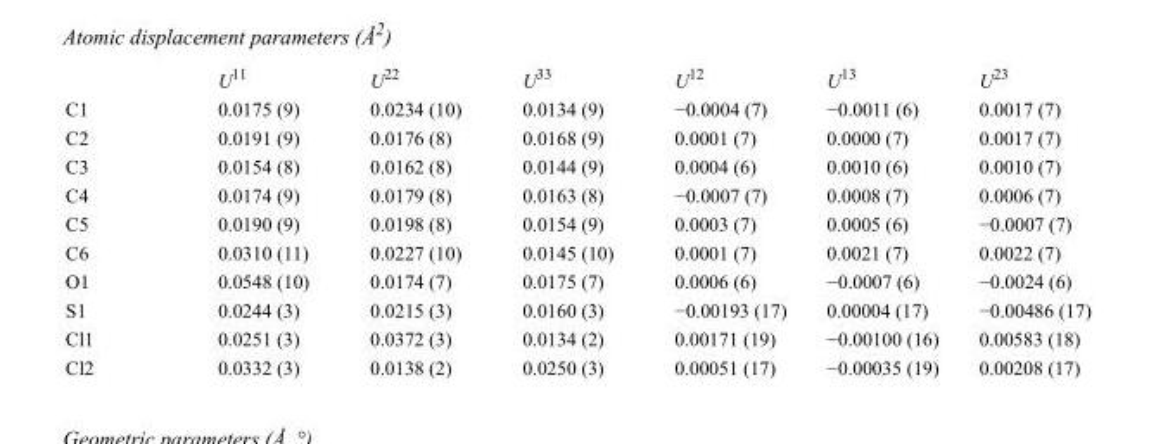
<table><thead><tr><td></td><td>U<sup>11</sup></td><td>U<sup>22</sup></td><td>U<sup>33</sup></td><td>U<sup>12</sup></td><td>U<sup>13</sup></td><td>U<sup>23</sup></td></tr></thead><tbody><tr><td>C1</td><td>0.0175 (9)</td><td>0.0234 (10)</td><td>0.0134 (9)</td><td>−0.0004 (7)</td><td>−0.0011 (6)</td><td>0.0017 (7)</td></tr><tr><td>C2</td><td>0.0191 (9)</td><td>0.0176 (8)</td><td>0.0168 (9)</td><td>0.0001 (7)</td><td>0.0000 (7)</td><td>0.0017 (7)</td></tr><tr><td>C3</td><td>0.0154 (8)</td><td>0.0162 (8)</td><td>0.0144 (9)</td><td>0.0004 (6)</td><td>0.0010 (6)</td><td>0.0010 (7)</td></tr><tr><td>C4</td><td>0.0174 (9)</td><td>0.0179 (8)</td><td>0.0163 (8)</td><td>−0.0007 (7)</td><td>0.0008 (7)</td><td>0.0006 (7)</td></tr><tr><td>C5</td><td>0.0190 (9)</td><td>0.0198 (8)</td><td>0.0154 (9)</td><td>0.0003 (7)</td><td>0.0005 (6)</td><td>−0.0007 (7)</td></tr><tr><td>C6</td><td>0.0310 (11)</td><td>0.0227 (10)</td><td>0.0145 (10)</td><td>0.0001 (7)</td><td>0.0021 (7)</td><td>0.0022 (7)</td></tr><tr><td>O1</td><td>0.0548 (10)</td><td>0.0174 (7)</td><td>0.0175 (7)</td><td>0.0006 (6)</td><td>−0.0007 (6)</td><td>−0.0024 (6)</td></tr><tr><td>S1</td><td>0.0244 (3)</td><td>0.0215 (3)</td><td>0.0160 (3)</td><td>−0.00193 (17)</td><td>0.00004 (17)</td><td>−0.00486 (17)</td></tr><tr><td>Cl1</td><td>0.0251 (3)</td><td>0.0372 (3)</td><td>0.0134 (2)</td><td>0.00171 (19)</td><td>−0.00100 (16)</td><td>0.00583 (18)</td></tr><tr><td>Cl2</td><td>0.0332 (3)</td><td>0.0138 (2)</td><td>0.0250 (3)</td><td>0.00051 (17)</td><td>−0.00035 (19)</td><td>0.00208 (17)</td></tr></tbody></table>